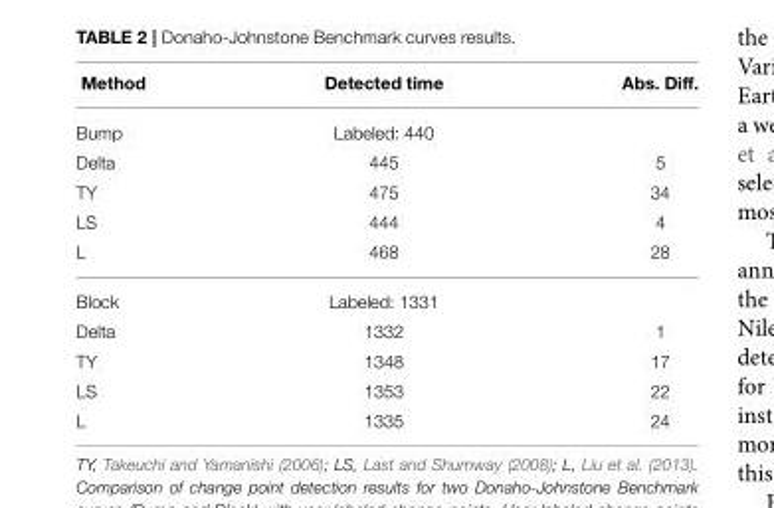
<table><thead><tr><td>Method</td><td>Detected time</td><td>Abs. Diff.</td></tr></thead><tbody><tr><td>Bump</td><td>Labeled: 440</td><td></td></tr><tr><td>Delta</td><td>445</td><td>5</td></tr><tr><td>TY</td><td>475</td><td>34</td></tr><tr><td>LS</td><td>444</td><td>4</td></tr><tr><td>L</td><td>468</td><td>28</td></tr><tr><td>Block</td><td>Labeled: 1331</td><td></td></tr><tr><td>Delta</td><td>1332</td><td>1</td></tr><tr><td>TY</td><td>1348</td><td>17</td></tr><tr><td>LS</td><td>1353</td><td>22</td></tr><tr><td>L</td><td>1335</td><td>24</td></tr></tbody></table>